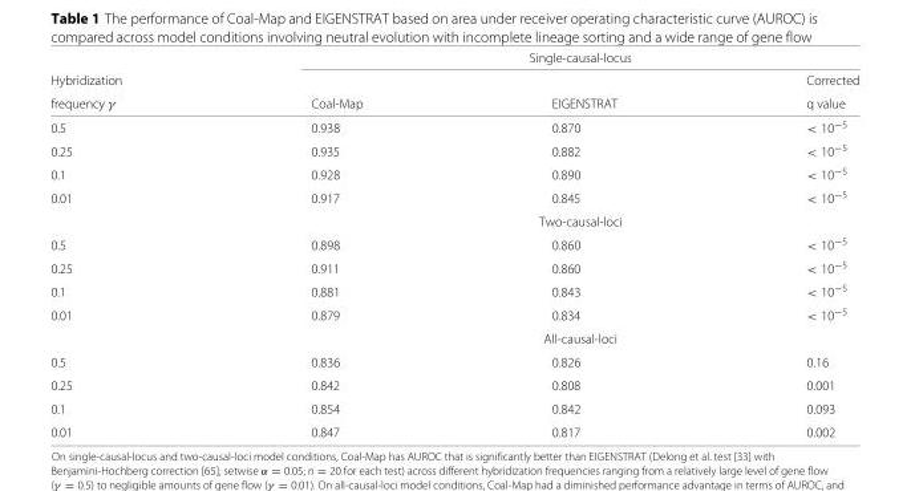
<table><thead><tr><td rowspan="3">Hybridization frequency γ</td><td colspan="3">Single-causal-locus</td></tr><tr><td rowspan="2">Coal-Map</td><td rowspan="2">EIGENSTRAT</td><td rowspan="2">Corrected q value</td></tr><tr></tr></thead><tbody><tr><td>0.5</td><td>0.938</td><td>0.870</td><td>&lt; 10<sup>−5</sup></td></tr><tr><td>0.25</td><td>0.935</td><td>0.882</td><td>&lt; 10<sup>−5</sup></td></tr><tr><td>0.1</td><td>0.928</td><td>0.890</td><td>&lt; 10<sup>−5</sup></td></tr><tr><td rowspan="2">0.01</td><td>0.917</td><td>0.845</td><td>&lt; 10<sup>−5</sup></td></tr><tr><td colspan="3">Two-causal-loci</td></tr><tr><td>0.5</td><td>0.898</td><td>0.860</td><td>&lt; 10<sup>−5</sup></td></tr><tr><td>0.25</td><td>0.911</td><td>0.860</td><td>&lt; 10<sup>−5</sup></td></tr><tr><td>0.1</td><td>0.881</td><td>0.843</td><td>&lt; 10<sup>−5</sup></td></tr><tr><td rowspan="2">0.01</td><td>0.879</td><td>0.834</td><td>&lt; 10<sup>−5</sup></td></tr><tr><td colspan="3">All-causal-loci</td></tr><tr><td>0.5</td><td>0.836</td><td>0.826</td><td>0.16</td></tr><tr><td>0.25</td><td>0.842</td><td>0.808</td><td>0.001</td></tr><tr><td>0.1</td><td>0.854</td><td>0.842</td><td>0.093</td></tr><tr><td>0.01</td><td>0.847</td><td>0.817</td><td>0.002</td></tr></tbody></table>